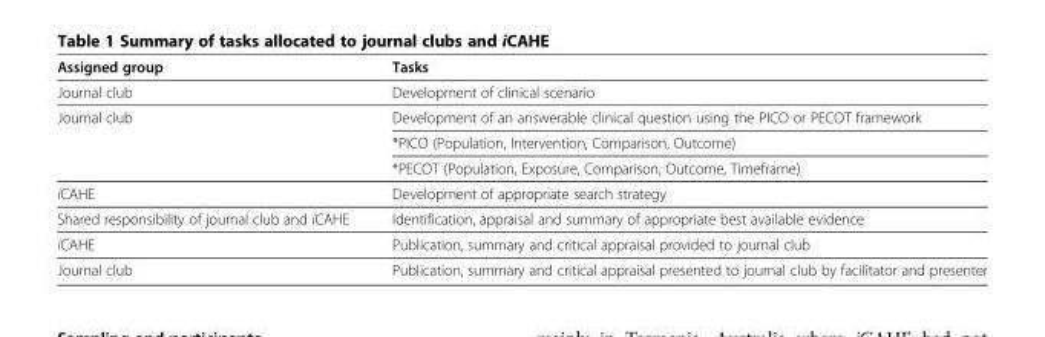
<table><thead><tr><td>Assigned group</td><td>Tasks</td></tr></thead><tbody><tr><td>Journal club</td><td>Development of clinical scenario</td></tr><tr><td rowspan="3">Journal club</td><td>Development of an answerable clinical question using the PICO or PECOT framework</td></tr><tr><td>*PICO (Population, Intervention, Comparison, Outcome)</td></tr><tr><td>*PECOT (Population, Exposure, Comparison, Outcome, Timeframe)</td></tr><tr><td>iCAHE</td><td>Development of appropriate search strategy</td></tr><tr><td>Shared responsibility of journal club and iCAHE</td><td>Identification, appraisal and summary of appropriate best available evidence</td></tr><tr><td>iCAHE</td><td>Publication, summary and critical appraisal provided to journal club</td></tr><tr><td>Journal club</td><td>Publication, summary and critical appraisal presented to journal club by facilitator and presenter</td></tr></tbody></table>